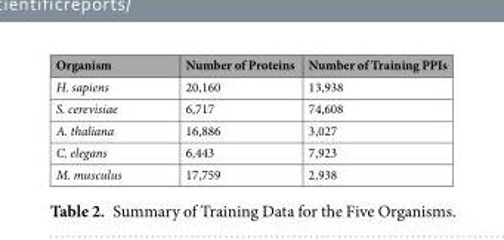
<table><thead><tr><td>Organism</td><td>Number of Proteins</td><td>Number of Training PPIs</td></tr></thead><tbody><tr><td>H. sapiens</td><td>20,160</td><td>13,938</td></tr><tr><td>S. cerevisiae</td><td>6,717</td><td>74,608</td></tr><tr><td>A. thaliana</td><td>16,886</td><td>3,027</td></tr><tr><td>C. elegans</td><td>6,443</td><td>7,923</td></tr><tr><td>M. musculus</td><td>17,759</td><td>2,938</td></tr></tbody></table>